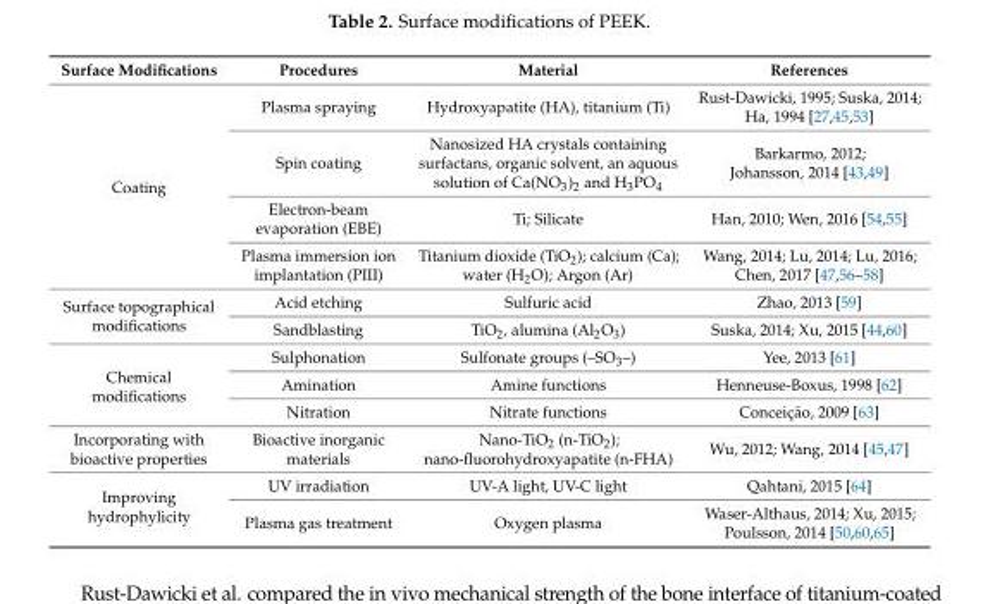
<table><thead><tr><td>Surface Modifications</td><td>Procedures</td><td>Material</td><td>References</td></tr></thead><tbody><tr><td rowspan="4">Coating</td><td>Plasma spraying</td><td>Hydroxyapatite (HA), titanium (Ti)</td><td>Rust-Dawicki, 1995; Suska, 2014; Ha, 1994 [27,45,53]</td></tr><tr><td>Spin coating</td><td>Nanosized HA crystals containing surfactans, organic solvent, an aquous solution of Ca(NO<sub>3</sub>)<sub>2</sub> and H<sub>3</sub>PO<sub>4</sub></td><td>Barkarmo, 2012; Johansson, 2014 [43,49]</td></tr><tr><td>Electron-beam evaporation (EBE)</td><td>Ti; Silicate</td><td>Han, 2010; Wen, 2016 [54,55]</td></tr><tr><td>Plasma immersion ion implantation (PIII)</td><td>Titanium dioxide (TiO<sub>2</sub>); calcium (Ca); water (H<sub>2</sub>O); Argon (Ar)</td><td>Wang, 2014; Lu, 2014; Lu, 2016; Chen, 2017 [47,56–58]</td></tr><tr><td rowspan="2">Surface topographical modifications</td><td>Acid etching</td><td>Sulfuric acid</td><td>Zhao, 2013 [59]</td></tr><tr><td>Sandblasting</td><td>TiO<sub>2</sub>, alumina (Al<sub>2</sub>O<sub>3</sub>)</td><td>Suska, 2014; Xu, 2015 [44,60]</td></tr><tr><td rowspan="3">Chemical modifications</td><td>Sulphonation</td><td>Sulfonate groups (–SO<sub>3</sub>–)</td><td>Yee, 2013 [61]</td></tr><tr><td>Amination</td><td>Amine functions</td><td>Henneuse-Boxus, 1998 [62]</td></tr><tr><td>Nitration</td><td>Nitrate functions</td><td>Conceição, 2009 [63]</td></tr><tr><td>Incorporating with bioactive properties</td><td>Bioactive inorganic materials</td><td>Nano-TiO<sub>2</sub> (n-TiO<sub>2</sub>); nano-fluorohydroxyapatite (n-FHA)</td><td>Wu, 2012; Wang, 2014 [45,47]</td></tr><tr><td rowspan="2">Improving hydrophylicity</td><td>UV irradiation</td><td>UV-A light, UV-C light</td><td>Qahtani, 2015 [64]</td></tr><tr><td>Plasma gas treatment</td><td>Oxygen plasma</td><td>Waser-Althaus, 2014; Xu, 2015; Poulsson, 2014 [50,60,65]</td></tr></tbody></table>